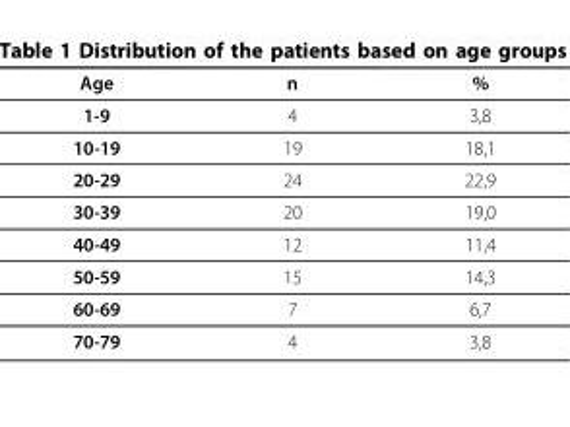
<table><thead><tr><td>Age</td><td>n</td><td>%</td></tr></thead><tbody><tr><td>1-9</td><td>4</td><td>3,8</td></tr><tr><td>10-19</td><td>19</td><td>18,1</td></tr><tr><td>20-29</td><td>24</td><td>22,9</td></tr><tr><td>30-39</td><td>20</td><td>19,0</td></tr><tr><td>40-49</td><td>12</td><td>11,4</td></tr><tr><td>50-59</td><td>15</td><td>14,3</td></tr><tr><td>60-69</td><td>7</td><td>6,7</td></tr><tr><td>70-79</td><td>4</td><td>3,8</td></tr></tbody></table>